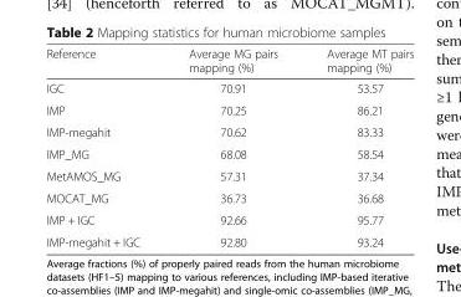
<table><thead><tr><td>Reference</td><td>Average MG pairs mapping (%)</td><td>Average MT pairs mapping (%)</td></tr></thead><tbody><tr><td>IGC</td><td>70.91</td><td>53.57</td></tr><tr><td>IMP</td><td>70.25</td><td>86.21</td></tr><tr><td>IMP-megahit</td><td>70.62</td><td>83.33</td></tr><tr><td>IMP_MG</td><td>68.08</td><td>58.54</td></tr><tr><td>MetAMOS_MG</td><td>57.31</td><td>37.34</td></tr><tr><td>MOCAT_MG</td><td>36.73</td><td>36.68</td></tr><tr><td>IMP + IGC</td><td>92.66</td><td>95.77</td></tr><tr><td>IMP-megahit + IGC</td><td>92.80</td><td>93.24</td></tr></tbody></table>